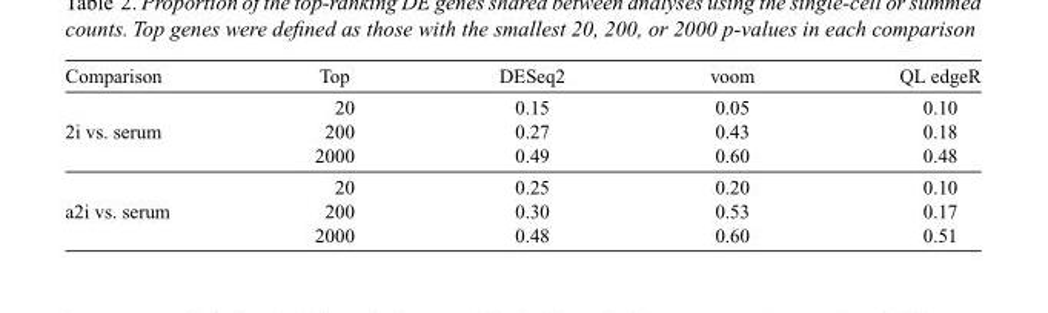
<table><thead><tr><td>Comparison</td><td>Top</td><td>DESeq2</td><td>voom</td><td>QL edgeR</td></tr></thead><tbody><tr><td></td><td>20</td><td>0.15</td><td>0.05</td><td>0.10</td></tr><tr><td rowspan="3">2i vs. serum</td><td>200</td><td>0.27</td><td>0.43</td><td>0.18</td></tr><tr><td>2000</td><td>0.49</td><td>0.60</td><td>0.48</td></tr><tr><td>20</td><td>0.25</td><td>0.20</td><td>0.10</td></tr><tr><td rowspan="2">a2i vs. serum</td><td>200</td><td>0.30</td><td>0.53</td><td>0.17</td></tr><tr><td>2000</td><td>0.48</td><td>0.60</td><td>0.51</td></tr></tbody></table>